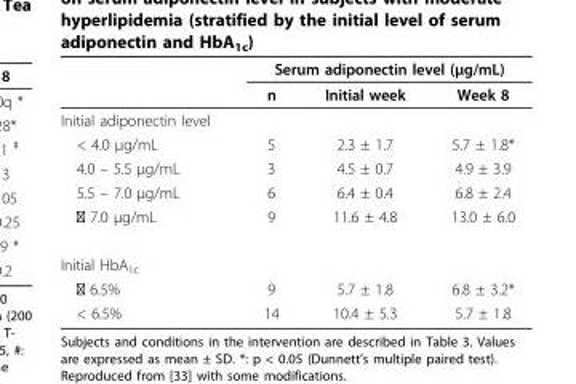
<table><thead><tr><td rowspan="2"></td><td colspan="3">Serum adiponectin level (μg/mL)</td></tr><tr><td>n</td><td>Initial week</td><td>Week 8</td></tr></thead><tbody><tr><td colspan="4">Initial adiponectin level</td></tr><tr><td>&lt; 4.0 μg/mL</td><td>5</td><td>2.3 ± 1.7</td><td>5.7 ± 1.8*</td></tr><tr><td>4.0 – 5.5 μg/mL</td><td>3</td><td>4.5 ± 0.7</td><td>4.9 ± 3.9</td></tr><tr><td>5.5 – 7.0 μg/mL</td><td>6</td><td>6.4 ± 0.4</td><td>6.8 ± 2.4</td></tr><tr><td>≧ 7.0 μg/mL</td><td>9</td><td>11.6 ± 4.8</td><td>13.0 ± 6.0</td></tr><tr><td colspan="4">Initial HbA<sub>1c</sub></td></tr><tr><td>≧ 6.5%</td><td>9</td><td>5.7 ± 1.8</td><td>6.8 ± 3.2*</td></tr><tr><td>&lt; 6.5%</td><td>14</td><td>10.4 ± 5.3</td><td>5.7 ± 1.8</td></tr></tbody></table>